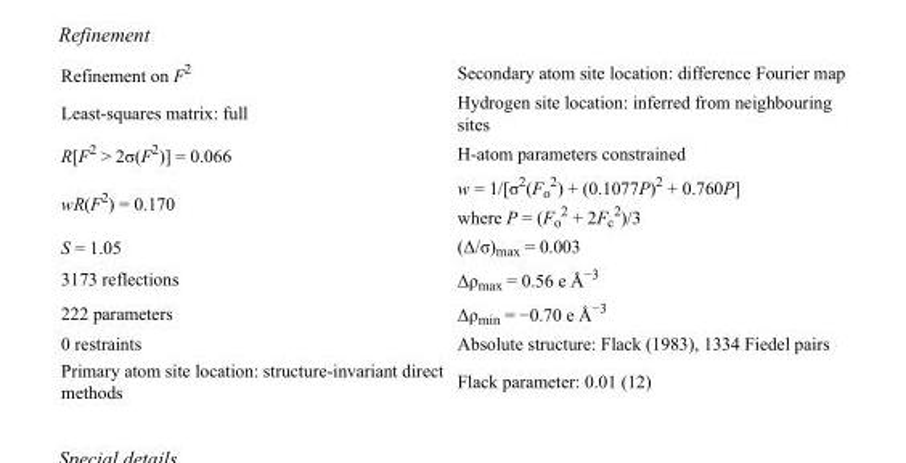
<table><tbody><tr><td>Refinement on F<sup>2</sup></td><td>Secondary atom site location: difference Fourier map</td></tr><tr><td>Least-squares matrix: full</td><td>Hydrogen site location: inferred from neighbouring sites</td></tr><tr><td>R[F<sup>2</sup> &gt; 2σ(F<sup>2</sup>)] = 0.066</td><td>H-atom parameters constrained</td></tr><tr><td>wR(F<sup>2</sup>) = 0.170</td><td>w = 1/[σ<sup>2</sup>(F<sub>o</sub> <sup>2</sup>) + (0.1077P)<sup>2</sup> + 0.760P] where P = (F<sub>o</sub> <sup>2</sup> + 2F<sub>c</sub> <sup>2</sup>)/3</td></tr><tr><td>S = 1.05</td><td>(Δ/σ)<sub>max</sub> = 0.003</td></tr><tr><td>3173 reflections</td><td>Δρ<sub>max</sub> = 0.56 e Å<sup>−3</sup></td></tr><tr><td>222 parameters</td><td>Δρ<sub>min</sub> = −0.70 e Å<sup>−3</sup></td></tr><tr><td>0 restraints</td><td>Absolute structure: Flack (1983), 1334 Fiedel pairs</td></tr><tr><td>Primary atom site location: structure-invariant direct methods</td><td>Flack parameter: 0.01 (12)</td></tr></tbody></table>